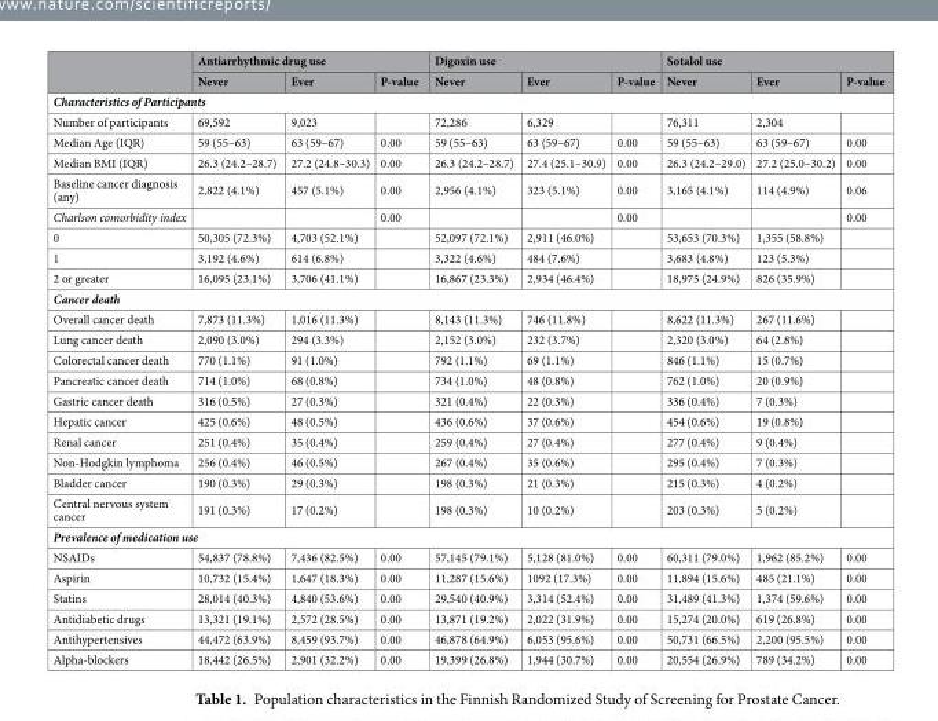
<table><thead><tr><td rowspan="2"></td><td colspan="3">Antiarrhythmic drug use</td><td colspan="3">Digoxin use</td><td colspan="3">Sotalol use</td></tr><tr><td>Never</td><td>Ever</td><td>P-value</td><td>Never</td><td>Ever</td><td>P-value</td><td>Never</td><td>Ever</td><td>P-value</td></tr></thead><tbody><tr><td colspan="10">Characteristics of Participants</td></tr><tr><td>Number of participants</td><td>69,592</td><td>9,023</td><td></td><td>72,286</td><td>6,329</td><td></td><td>76,311</td><td>2,304</td><td></td></tr><tr><td>Median Age (IQR)</td><td>59 (55–63)</td><td>63 (59–67)</td><td>0.00</td><td>59 (55–63)</td><td>63 (59–67)</td><td>0.00</td><td>59 (55–63)</td><td>63 (59–67)</td><td>0.00</td></tr><tr><td>Median BMI (IQR)</td><td>26.3 (24.2–28.7)</td><td>27.2 (24.8–30.3)</td><td>0.00</td><td>26.3 (24.2–28.7)</td><td>27.4 (25.1–30.9)</td><td>0.00</td><td>26.3 (24.2–29.0)</td><td>27.2 (25.0–30.2)</td><td>0.00</td></tr><tr><td>Baseline cancer diagnosis (any)</td><td>2,822 (4.1%)</td><td>457 (5.1%)</td><td>0.00</td><td>2,956 (4.1%)</td><td>323 (5.1%)</td><td>0.00</td><td>3,165 (4.1%)</td><td>114 (4.9%)</td><td>0.06</td></tr><tr><td>Charlson comorbidity index</td><td></td><td></td><td>0.00</td><td></td><td></td><td>0.00</td><td></td><td></td><td>0.00</td></tr><tr><td>0</td><td>50,305 (72.3%)</td><td>4,703 (52.1%)</td><td></td><td>52,097 (72.1%)</td><td>2,911 (46.0%)</td><td></td><td>53,653 (70.3%)</td><td>1,355 (58.8%)</td><td></td></tr><tr><td>1</td><td>3,192 (4.6%)</td><td>614 (6.8%)</td><td></td><td>3,322 (4.6%)</td><td>484 (7.6%)</td><td></td><td>3,683 (4.8%)</td><td>123 (5.3%)</td><td></td></tr><tr><td>2 or greater</td><td>16,095 (23.1%)</td><td>3,706 (41.1%)</td><td></td><td>16,867 (23.3%)</td><td>2,934 (46.4%)</td><td></td><td>18,975 (24.9%)</td><td>826 (35.9%)</td><td></td></tr><tr><td colspan="10">Cancer death</td></tr><tr><td>Overall cancer death</td><td>7,873 (11.3%)</td><td>1,016 (11.3%)</td><td></td><td>8,143 (11.3%)</td><td>746 (11.8%)</td><td></td><td>8,622 (11.3%)</td><td>267 (11.6%)</td><td></td></tr><tr><td>Lung cancer death</td><td>2,090 (3.0%)</td><td>294 (3.3%)</td><td></td><td>2,152 (3.0%)</td><td>232 (3.7%)</td><td></td><td>2,320 (3.0%)</td><td>64 (2.8%)</td><td></td></tr><tr><td>Colorectal cancer death</td><td>770 (1.1%)</td><td>91 (1.0%)</td><td></td><td>792 (1.1%)</td><td>69 (1.1%)</td><td></td><td>846 (1.1%)</td><td>15 (0.7%)</td><td></td></tr><tr><td>Pancreatic cancer death</td><td>714 (1.0%)</td><td>68 (0.8%)</td><td></td><td>734 (1.0%)</td><td>48 (0.8%)</td><td></td><td>762 (1.0%)</td><td>20 (0.9%)</td><td></td></tr><tr><td>Gastric cancer death</td><td>316 (0.5%)</td><td>27 (0.3%)</td><td></td><td>321 (0.4%)</td><td>22 (0.3%)</td><td></td><td>336 (0.4%)</td><td>7 (0.3%)</td><td></td></tr><tr><td>Hepatic cancer</td><td>425 (0.6%)</td><td>48 (0.5%)</td><td></td><td>436 (0.6%)</td><td>37 (0.6%)</td><td></td><td>454 (0.6%)</td><td>19 (0.8%)</td><td></td></tr><tr><td>Renal cancer</td><td>251 (0.4%)</td><td>35 (0.4%)</td><td></td><td>259 (0.4%)</td><td>27 (0.4%)</td><td></td><td>277 (0.4%)</td><td>9 (0.4%)</td><td></td></tr><tr><td>Non-Hodgkin lymphoma</td><td>256 (0.4%)</td><td>46 (0.5%)</td><td></td><td>267 (0.4%)</td><td>35 (0.6%)</td><td></td><td>295 (0.4%)</td><td>7 (0.3%)</td><td></td></tr><tr><td>Bladder cancer</td><td>190 (0.3%)</td><td>29 (0.3%)</td><td></td><td>198 (0.3%)</td><td>21 (0.3%)</td><td></td><td>215 (0.3%)</td><td>4 (0.2%)</td><td></td></tr><tr><td>Central nervous system cancer</td><td>191 (0.3%)</td><td>17 (0.2%)</td><td></td><td>198 (0.3%)</td><td>10 (0.2%)</td><td></td><td>203 (0.3%)</td><td>5 (0.2%)</td><td></td></tr><tr><td colspan="10">Prevalence of medication use</td></tr><tr><td>NSAIDs</td><td>54,837 (78.8%)</td><td>7,436 (82.5%)</td><td>0.00</td><td>57,145 (79.1%)</td><td>5,128 (81.0%)</td><td>0.00</td><td>60,311 (79.0%)</td><td>1,962 (85.2%)</td><td>0.00</td></tr><tr><td>Aspirin</td><td>10,732 (15.4%)</td><td>1,647 (18.3%)</td><td>0.00</td><td>11,287 (15.6%)</td><td>1092 (17.3%)</td><td>0.00</td><td>11,894 (15.6%)</td><td>485 (21.1%)</td><td>0.00</td></tr><tr><td>Statins</td><td>28,014 (40.3%)</td><td>4,840 (53.6%)</td><td>0.00</td><td>29,540 (40.9%)</td><td>3,314 (52.4%)</td><td>0.00</td><td>31,489 (41.3%)</td><td>1,374 (59.6%)</td><td>0.00</td></tr><tr><td>Antidiabetic drugs</td><td>13,321 (19.1%)</td><td>2,572 (28.5%)</td><td>0.00</td><td>13,871 (19.2%)</td><td>2,022 (31.9%)</td><td>0.00</td><td>15,274 (20.0%)</td><td>619 (26.8%)</td><td>0.00</td></tr><tr><td>Antihypertensives</td><td>44,472 (63.9%)</td><td>8,459 (93.7%)</td><td>0.00</td><td>46,878 (64.9%)</td><td>6,053 (95.6%)</td><td>0.00</td><td>50,731 (66.5%)</td><td>2,200 (95.5%)</td><td>0.00</td></tr><tr><td>Alpha-blockers</td><td>18,442 (26.5%)</td><td>2,901 (32.2%)</td><td>0.00</td><td>19,399 (26.8%)</td><td>1,944 (30.7%)</td><td>0.00</td><td>20,554 (26.9%)</td><td>789 (34.2%)</td><td>0.00</td></tr></tbody></table>